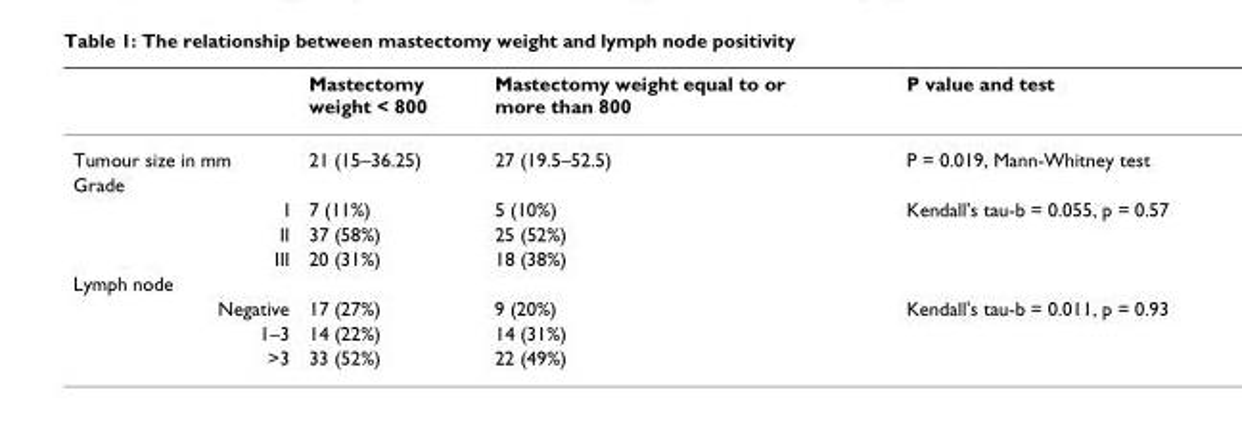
<table><thead><tr><td></td><td>Mastectomy weight &lt; 800</td><td>Mastectomy weight equal to or more than 800</td><td>P value and test</td></tr></thead><tbody><tr><td>Tumour size in mm</td><td>21 (15–36.25)</td><td>27 (19.5–52.5)</td><td>P = 0.019, Mann-Whitney test</td></tr><tr><td colspan="4">Grade</td></tr><tr><td>I</td><td>7 (11%)</td><td>5 (10%)</td><td>Kendall&#x27;s tau-b = 0.055, p = 0.57</td></tr><tr><td>II</td><td>37 (58%)</td><td>25 (52%)</td><td></td></tr><tr><td>III</td><td>20 (31%)</td><td>18 (38%)</td><td></td></tr><tr><td colspan="4">Lymph node</td></tr><tr><td>Negative</td><td>17 (27%)</td><td>9 (20%)</td><td>Kendall&#x27;s tau-b = 0.011, p = 0.93</td></tr><tr><td>1–3</td><td>14 (22%)</td><td>14 (31%)</td><td></td></tr><tr><td>&gt;3</td><td>33 (52%)</td><td>22 (49%)</td><td></td></tr></tbody></table>